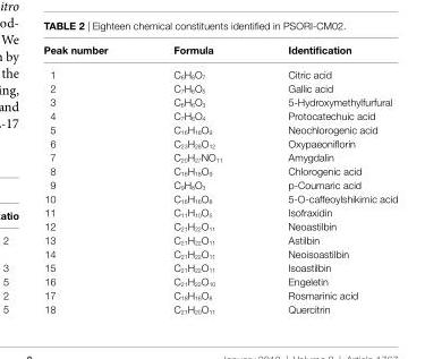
<table><thead><tr><td>Peak number</td><td>Formula</td><td>identification</td></tr></thead><tbody><tr><td>1</td><td>C<sub>6</sub>H<sub>8</sub>O<sub>7</sub></td><td>Citric acid</td></tr><tr><td>2</td><td>C<sub>7</sub>H<sub>6</sub>O<sub>5</sub></td><td>Gallic acid</td></tr><tr><td>3</td><td>C<sub>6</sub>H<sub>6</sub>O<sub>3</sub></td><td>5-Hydroxymethylfurfural</td></tr><tr><td>4</td><td>C<sub>7</sub>H<sub>6</sub>O<sub>4</sub></td><td>Protocatechuic acid</td></tr><tr><td>5</td><td>C<sub>16</sub>H<sub>18</sub>O<sub>9</sub></td><td>Neochlorogenic acid</td></tr><tr><td>6</td><td>C<sub>23</sub>H<sub>28</sub>O<sub>12</sub></td><td>Oxypaeoniflorin</td></tr><tr><td>7</td><td>C<sub>20</sub>H<sub>27</sub>NO<sub>11</sub></td><td>Amygdalin</td></tr><tr><td>8</td><td>C<sub>16</sub>H<sub>18</sub>O<sub>9</sub></td><td>Chlorogenic acid</td></tr><tr><td>9</td><td>C<sub>9</sub>H<sub>8</sub>O<sub>3</sub></td><td>p-Coumaric acid</td></tr><tr><td>10</td><td>C<sub>16</sub>H<sub>16</sub>O<sub>8</sub></td><td>5-O-caffeoylshikimic acid</td></tr><tr><td>11</td><td>C<sub>11</sub>H<sub>10</sub>O<sub>5</sub></td><td>Isofraxidin</td></tr><tr><td>12</td><td>C<sub>21</sub>H<sub>22</sub>O<sub>11</sub></td><td>Neoastilbin</td></tr><tr><td>13</td><td>C<sub>21</sub>H<sub>22</sub>O<sub>11</sub></td><td>Astilbin</td></tr><tr><td>14</td><td>C<sub>21</sub>H<sub>22</sub>O<sub>11</sub></td><td>Neoisoastilbin</td></tr><tr><td>15</td><td>C<sub>21</sub>H<sub>22</sub>O<sub>11</sub></td><td>Isoastilbin</td></tr><tr><td>16</td><td>C<sub>21</sub>H<sub>22</sub>O<sub>10</sub></td><td>Engeletin</td></tr><tr><td>17</td><td>C<sub>18</sub>H<sub>16</sub>O<sub>8</sub></td><td>Rosmarinic acid</td></tr><tr><td>18</td><td>C<sub>21</sub>H<sub>20</sub>O<sub>11</sub></td><td>Quercitrin</td></tr></tbody></table>